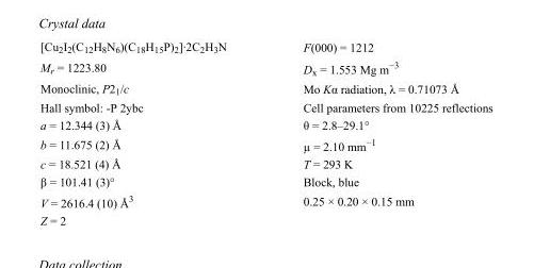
<table><tbody><tr><td>[Cu<sub>2</sub>I<sub>2</sub>(C<sub>12</sub>H<sub>8</sub>N<sub>6</sub>)(C<sub>18</sub>H<sub>15</sub>P)<sub>2</sub>]·2C<sub>2</sub>H<sub>3</sub>N</td><td>F(000) = 1212</td></tr><tr><td>M<sub>r</sub> = 1223.80</td><td>D<sub>x</sub> = 1.553 Mg m<sup>−3</sup></td></tr><tr><td>Monoclinic, P2<sub>1</sub>/c</td><td>Mo Kα radiation, λ = 0.71073 Å</td></tr><tr><td>Hall symbol: -P 2ybc</td><td>Cell parameters from 10225 reflections</td></tr><tr><td>a = 12.344 (3) Å</td><td>θ = 2.8–29.1°</td></tr><tr><td>b = 11.675 (2) Å</td><td>µ = 2.10 mm<sup>−1</sup></td></tr><tr><td>c = 18.521 (4) Å</td><td>T = 293 K</td></tr><tr><td>β = 101.41 (3)°</td><td>Block, blue</td></tr><tr><td>V = 2616.4 (10) Å<sup>3</sup></td><td>0.25 × 0.20 × 0.15 mm</td></tr><tr><td>Z = 2</td><td></td></tr></tbody></table>